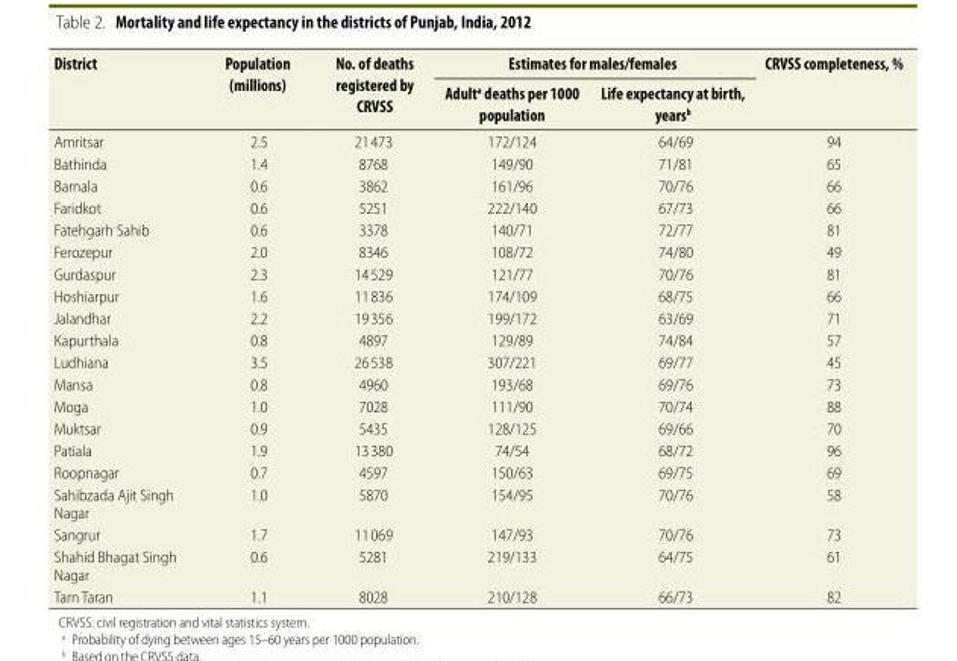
<table><thead><tr><td rowspan="2">District</td><td rowspan="2">Population (millions)</td><td rowspan="2">No. of deaths registered by CRVSS</td><td colspan="2">Estimates for males/females</td><td rowspan="2">CRVSS completeness, %</td></tr><tr><td>Adult<sup>a</sup> deaths per 1000 population</td><td>Life expectancy at birth, years<sup>b</sup></td></tr></thead><tbody><tr><td>Amritsar</td><td>2.5</td><td>21 473</td><td>172/124</td><td>64/69</td><td>94</td></tr><tr><td>Bathinda</td><td>1.4</td><td>8768</td><td>149/90</td><td>71/81</td><td>65</td></tr><tr><td>Barnala</td><td>0.6</td><td>3862</td><td>161/96</td><td>70/76</td><td>66</td></tr><tr><td>Faridkot</td><td>0.6</td><td>5251</td><td>222/140</td><td>67/73</td><td>66</td></tr><tr><td>Fatehgarh Sahib</td><td>0.6</td><td>3378</td><td>140/71</td><td>72/77</td><td>81</td></tr><tr><td>Ferozepur</td><td>2.0</td><td>8346</td><td>108/72</td><td>74/80</td><td>49</td></tr><tr><td>Gurdaspur</td><td>2.3</td><td>14 529</td><td>121/77</td><td>70/76</td><td>81</td></tr><tr><td>Hoshiarpur</td><td>1.6</td><td>11 836</td><td>174/109</td><td>68/75</td><td>66</td></tr><tr><td>Jalandhar</td><td>2.2</td><td>19 356</td><td>199/172</td><td>63/69</td><td>71</td></tr><tr><td>Kapurthala</td><td>0.8</td><td>4897</td><td>129/89</td><td>74/84</td><td>57</td></tr><tr><td>Ludhiana</td><td>3.5</td><td>26 538</td><td>307/221</td><td>69/77</td><td>45</td></tr><tr><td>Mansa</td><td>0.8</td><td>4960</td><td>193/68</td><td>69/76</td><td>73</td></tr><tr><td>Moga</td><td>1.0</td><td>7028</td><td>111/90</td><td>70/74</td><td>88</td></tr><tr><td>Muktsar</td><td>0.9</td><td>5435</td><td>128/125</td><td>69/66</td><td>70</td></tr><tr><td>Patiala</td><td>1.9</td><td>13 380</td><td>74/54</td><td>68/72</td><td>96</td></tr><tr><td>Roopnagar</td><td>0.7</td><td>4597</td><td>150/63</td><td>69/75</td><td>69</td></tr><tr><td>Sahibzada Ajit Singh Nagar</td><td>1.0</td><td>5870</td><td>154/95</td><td>70/76</td><td>58</td></tr><tr><td>Sangrur</td><td>1.7</td><td>11 069</td><td>147/93</td><td>70/76</td><td>73</td></tr><tr><td>Shahid Bhagat Singh Nagar</td><td>0.6</td><td>5281</td><td>219/133</td><td>64/75</td><td>61</td></tr><tr><td>Tarn Taran</td><td>1.1</td><td>8028</td><td>210/128</td><td>66/73</td><td>82</td></tr></tbody></table>